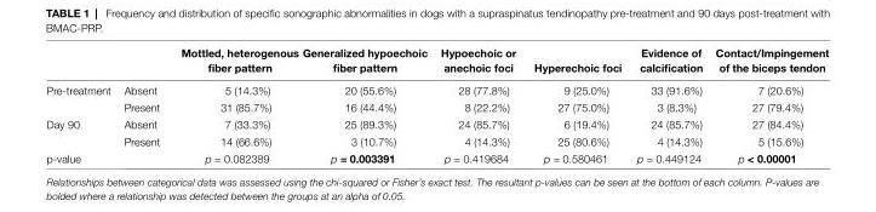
<table><thead><tr><td></td><td></td><td>Mottled, heterogenous fiber pattern</td><td>generalized hypoechoic fiber pattern</td><td>hypoechoic or anechoic foci</td><td>hyperechoic foci</td><td>evidence of calcification</td><td>contact/impingement of the biceps tendon</td></tr></thead><tbody><tr><td rowspan="2">Pre-treatment</td><td>Absent</td><td>5 (14.3%)</td><td>20 (55.6%)</td><td>28 (77.8%)</td><td>9 (25.0%)</td><td>33 (91.6%)</td><td>7 (20.6%)</td></tr><tr><td>Present</td><td>31 (85.7%)</td><td>16 (44.4%)</td><td>8 (22.2%)</td><td>27 (75.0%)</td><td>3 (8.3%)</td><td>27 (79.4%)</td></tr><tr><td rowspan="2">Day 90</td><td>Absent</td><td>7 (33.3%)</td><td>25 (89.3%)</td><td>24 (85.7%)</td><td>6 (19.4%)</td><td>24 (85.7%)</td><td>27 (84.4%)</td></tr><tr><td>Present</td><td>14 (66.6%)</td><td>3 (10.7%)</td><td>4 (14.3%)</td><td>25 (80.6%)</td><td>4 (14.3%)</td><td>5 (15.6%)</td></tr><tr><td>p-value</td><td></td><td>p = 0.082389</td><td>p = 0.003391</td><td>p = 0.419684</td><td>p = 0.580461</td><td>p = 0.449124</td><td>p &lt; 0.00001</td></tr></tbody></table>